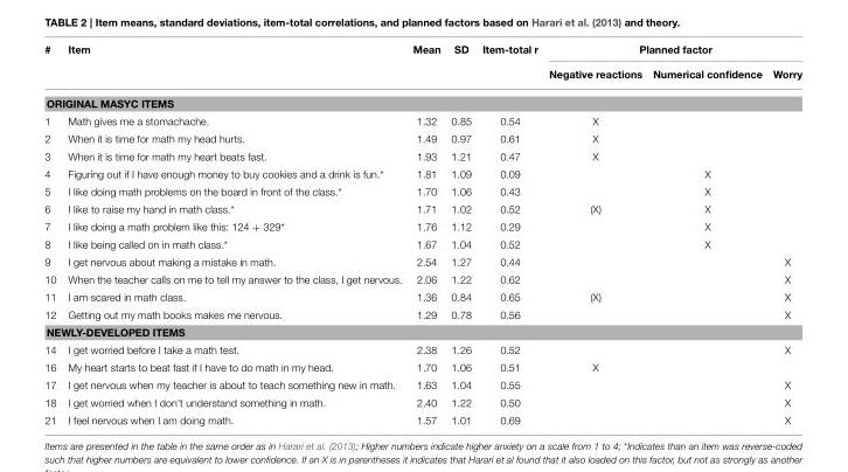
<table><thead><tr><td rowspan="2">#</td><td rowspan="2">Item</td><td rowspan="2">Mean</td><td rowspan="2">SD</td><td rowspan="2">Item-total r</td><td colspan="3">Planned factor</td></tr><tr><td>Negative reactions</td><td>Numerical confidence</td><td>Worry</td></tr></thead><tbody><tr><td colspan="8">ORIGINAL MASYC ITEMS</td></tr><tr><td>1</td><td>Math gives me a stomachache.</td><td>1.32</td><td>0.85</td><td>0.54</td><td>X</td><td></td><td></td></tr><tr><td>2</td><td>When it is time for math my head hurts.</td><td>1.49</td><td>0.97</td><td>0.61</td><td>X</td><td></td><td></td></tr><tr><td>3</td><td>When it is time for math my heart beats fast.</td><td>1.93</td><td>1.21</td><td>0.47</td><td>X</td><td></td><td></td></tr><tr><td>4</td><td>Figuring out if I have enough money to buy cookies and a drink is fun.*</td><td>1.81</td><td>1.09</td><td>0.09</td><td></td><td>X</td><td></td></tr><tr><td>5</td><td>I like doing math problems on the board in front of the class.*</td><td>1.70</td><td>1.06</td><td>0.43</td><td></td><td>X</td><td></td></tr><tr><td>6</td><td>I like to raise my hand in math class.*</td><td>1.71</td><td>1.02</td><td>0.52</td><td>(X)</td><td>X</td><td></td></tr><tr><td>7</td><td>I like doing a math problem like this: 124 + 329*</td><td>1.76</td><td>1.12</td><td>0.29</td><td></td><td>X</td><td></td></tr><tr><td>8</td><td>I like being called on in math class.*</td><td>1.67</td><td>1.04</td><td>0.52</td><td></td><td>X</td><td></td></tr><tr><td>9</td><td>I get nervous about making a mistake in math.</td><td>2.54</td><td>1.27</td><td>0.44</td><td></td><td></td><td>X</td></tr><tr><td>10</td><td>When the teacher calls on me to tell my answer to the class, I get nervous.</td><td>2.06</td><td>1.22</td><td>0.62</td><td></td><td></td><td>X</td></tr><tr><td>11</td><td>I am scared in math class.</td><td>1.36</td><td>0.84</td><td>0.65</td><td>(X)</td><td></td><td>X</td></tr><tr><td>12</td><td>Getting out my math books makes me nervous.</td><td>1.29</td><td>0.78</td><td>0.56</td><td></td><td></td><td>X</td></tr><tr><td colspan="8">NEWLY-DEVELOPED ITEMS</td></tr><tr><td>14</td><td>I get worried before I take a math test.</td><td>2.38</td><td>1.26</td><td>0.52</td><td></td><td></td><td>X</td></tr><tr><td>16</td><td>My heart starts to beat fast if I have to do math in my head.</td><td>1.70</td><td>1.06</td><td>0.51</td><td>X</td><td></td><td></td></tr><tr><td>17</td><td>I get nervous when my teacher is about to teach something new in math.</td><td>1.63</td><td>1.04</td><td>0.55</td><td></td><td></td><td>X</td></tr><tr><td>18</td><td>I get worried when I don’t understand something in math.</td><td>2.40</td><td>1.22</td><td>0.50</td><td></td><td></td><td>X</td></tr><tr><td>21</td><td>I feel nervous when I am doing math.</td><td>1.57</td><td>1.01</td><td>0.69</td><td></td><td></td><td>X</td></tr></tbody></table>